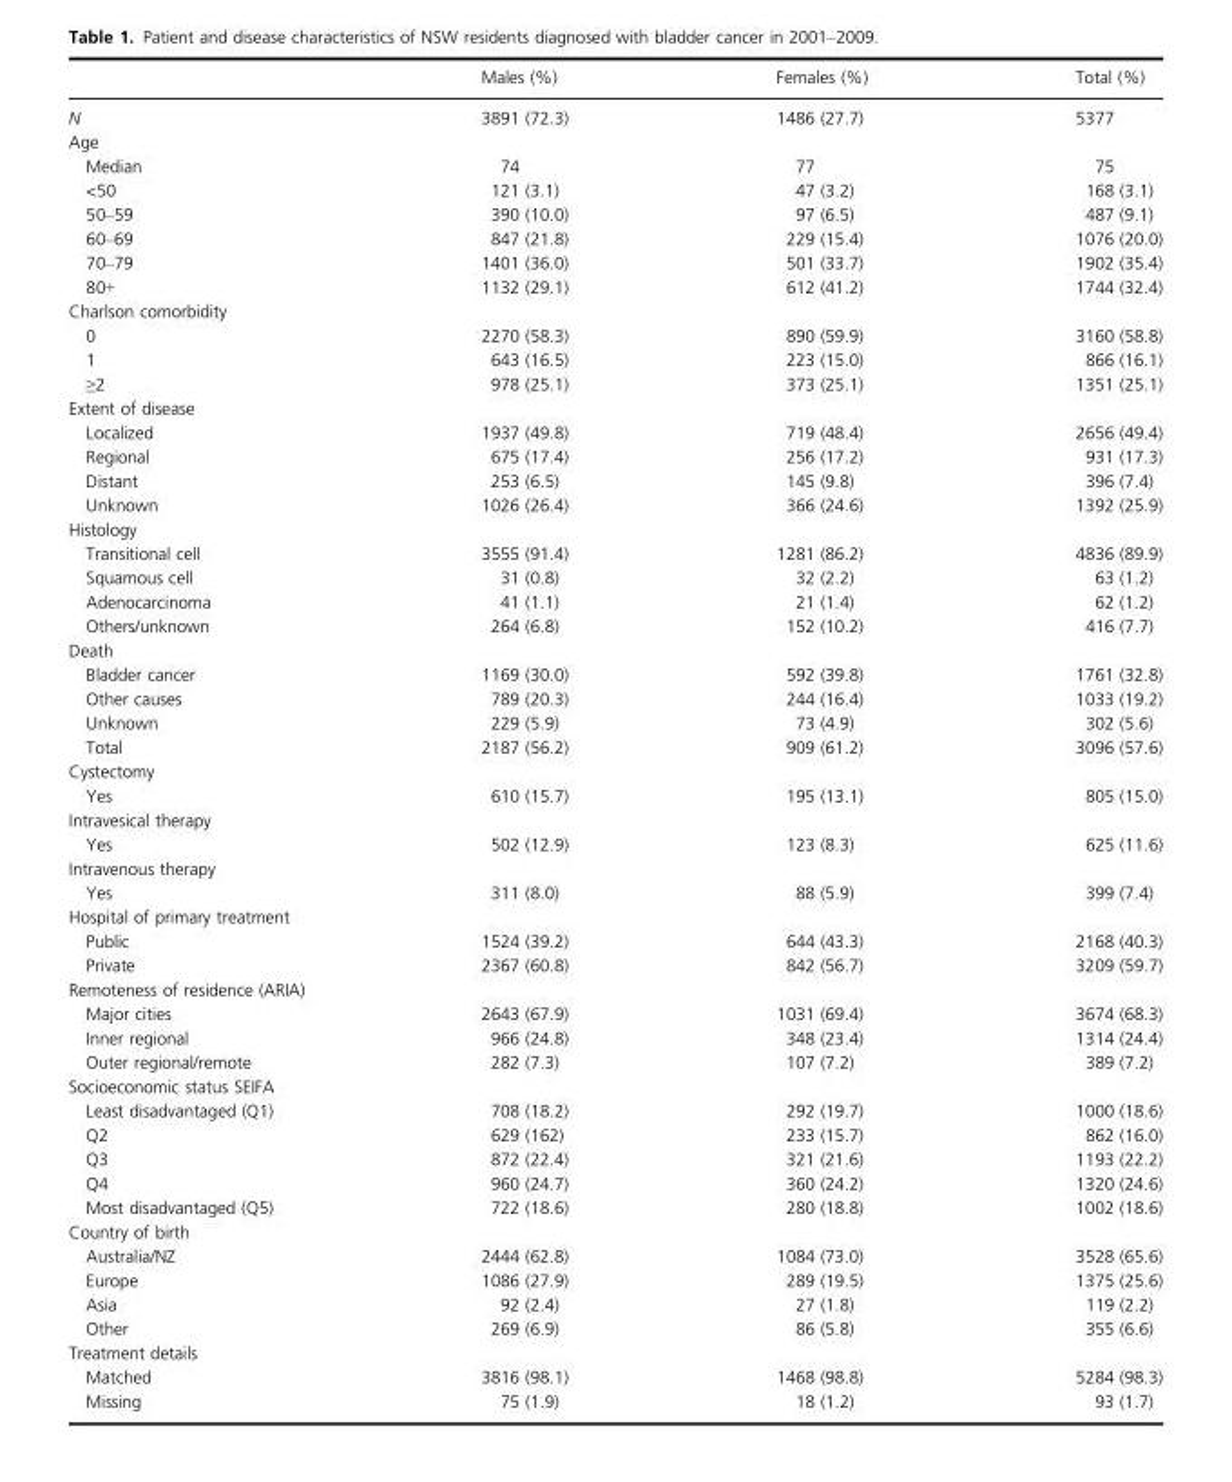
<table><thead><tr><td></td><td>Males (%)</td><td>Females (%)</td><td>Total (%)</td></tr></thead><tbody><tr><td>N</td><td>3891 (72.3)</td><td>1486 (27.7)</td><td>5377</td></tr><tr><td colspan="4">Age</td></tr><tr><td>Median</td><td>74</td><td>77</td><td>75</td></tr><tr><td>&lt;50</td><td>121 (3.1)</td><td>47 (3.2)</td><td>168 (3.1)</td></tr><tr><td>50–59</td><td>390 (10.0)</td><td>97 (6.5)</td><td>487 (9.1)</td></tr><tr><td>60–69</td><td>847 (21.8)</td><td>229 (15.4)</td><td>1076 (20.0)</td></tr><tr><td>70–79</td><td>1401 (36.0)</td><td>501 (33.7)</td><td>1902 (35.4)</td></tr><tr><td>80+</td><td>1132 (29.1)</td><td>612 (41.2)</td><td>1744 (32.4)</td></tr><tr><td colspan="4">Charlson comorbidity</td></tr><tr><td>0</td><td>2270 (58.3)</td><td>890 (59.9)</td><td>3160 (58.8)</td></tr><tr><td>1</td><td>643 (16.5)</td><td>223 (15.0)</td><td>866 (16.1)</td></tr><tr><td>≥2</td><td>978 (25.1)</td><td>373 (25.1)</td><td>1351 (25.1)</td></tr><tr><td colspan="4">Extent of disease</td></tr><tr><td>Localized</td><td>1937 (49.8)</td><td>719 (48.4)</td><td>2656 (49.4)</td></tr><tr><td>Regional</td><td>675 (17.4)</td><td>256 (17.2)</td><td>931 (17.3)</td></tr><tr><td>Distant</td><td>253 (6.5)</td><td>145 (9.8)</td><td>396 (7.4)</td></tr><tr><td>Unknown</td><td>1026 (26.4)</td><td>366 (24.6)</td><td>1392 (25.9)</td></tr><tr><td colspan="4">Histology</td></tr><tr><td>Transitional cell</td><td>3555 (91.4)</td><td>1281 (86.2)</td><td>4836 (89.9)</td></tr><tr><td>Squamous cell</td><td>31 (0.8)</td><td>32 (2.2)</td><td>63 (1.2)</td></tr><tr><td>Adenocarcinoma</td><td>41 (1.1)</td><td>21 (1.4)</td><td>62 (1.2)</td></tr><tr><td>Others/unknown</td><td>264 (6.8)</td><td>152 (10.2)</td><td>416 (7.7)</td></tr><tr><td colspan="4">Death</td></tr><tr><td>Bladder cancer</td><td>1169 (30.0)</td><td>592 (39.8)</td><td>1761 (32.8)</td></tr><tr><td>Other causes</td><td>789 (20.3)</td><td>244 (16.4)</td><td>1033 (19.2)</td></tr><tr><td>Unknown</td><td>229 (5.9)</td><td>73 (4.9)</td><td>302 (5.6)</td></tr><tr><td>Total</td><td>2187 (56.2)</td><td>909 (61.2)</td><td>3096 (57.6)</td></tr><tr><td colspan="4">Cystectomy</td></tr><tr><td>Yes</td><td>610 (15.7)</td><td>195 (13.1)</td><td>805 (15.0)</td></tr><tr><td colspan="4">Intravesical therapy</td></tr><tr><td>Yes</td><td>502 (12.9)</td><td>123 (8.3)</td><td>625 (11.6)</td></tr><tr><td colspan="4">Intravenous therapy</td></tr><tr><td>Yes</td><td>311 (8.0)</td><td>88 (5.9)</td><td>399 (7.4)</td></tr><tr><td colspan="4">Hospital of primary treatment</td></tr><tr><td>Public</td><td>1524 (39.2)</td><td>644 (43.3)</td><td>2168 (40.3)</td></tr><tr><td>Private</td><td>2367 (60.8)</td><td>842 (56.7)</td><td>3209 (59.7)</td></tr><tr><td colspan="4">Remoteness of residence (ARIA)</td></tr><tr><td>Major cities</td><td>2643 (67.9)</td><td>1031 (69.4)</td><td>3674 (68.3)</td></tr><tr><td>Inner regional</td><td>966 (24.8)</td><td>348 (23.4)</td><td>1314 (24.4)</td></tr><tr><td>Outer regional/remote</td><td>282 (7.3)</td><td>107 (7.2)</td><td>389 (7.2)</td></tr><tr><td colspan="4">Socioeconomic status SEIFA</td></tr><tr><td>Least disadvantaged (Q1)</td><td>708 (18.2)</td><td>292 (19.7)</td><td>1000 (18.6)</td></tr><tr><td>Q2</td><td>629 (162)</td><td>233 (15.7)</td><td>862 (16.0)</td></tr><tr><td>Q3</td><td>872 (22.4)</td><td>321 (21.6)</td><td>1193 (22.2)</td></tr><tr><td>Q4</td><td>960 (24.7)</td><td>360 (24.2)</td><td>1320 (24.6)</td></tr><tr><td>Most disadvantaged (Q5)</td><td>722 (18.6)</td><td>280 (18.8)</td><td>1002 (18.6)</td></tr><tr><td colspan="4">Country of birth</td></tr><tr><td>Australia/NZ</td><td>2444 (62.8)</td><td>1084 (73.0)</td><td>3528 (65.6)</td></tr><tr><td>Europe</td><td>1086 (27.9)</td><td>289 (19.5)</td><td>1375 (25.6)</td></tr><tr><td>Asia</td><td>92 (2.4)</td><td>27 (1.8)</td><td>119 (2.2)</td></tr><tr><td>Other</td><td>269 (6.9)</td><td>86 (5.8)</td><td>355 (6.6)</td></tr><tr><td colspan="4">Treatment details</td></tr><tr><td>Matched</td><td>3816 (98.1)</td><td>1468 (98.8)</td><td>5284 (98.3)</td></tr><tr><td>Missing</td><td>75 (1.9)</td><td>18 (1.2)</td><td>93 (1.7)</td></tr></tbody></table>